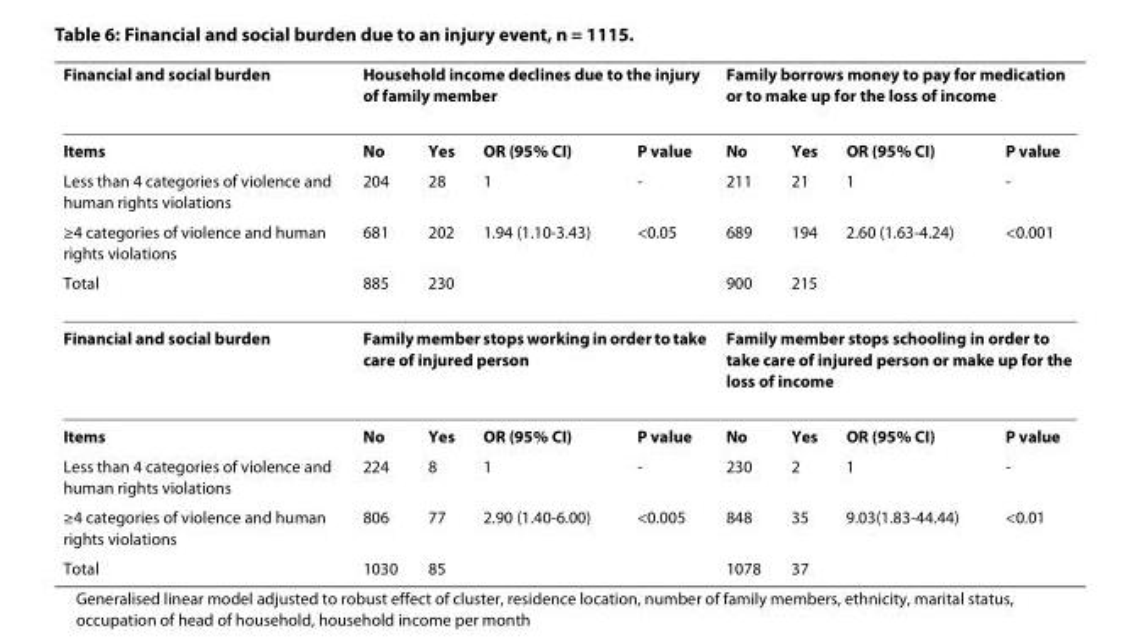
<table><thead><tr><td rowspan="2">Financial and social burden Items</td><td colspan="4">Household income declines due to the injury of family member</td><td colspan="4">Family borrows money to pay for medication or to make up for the loss of income</td></tr><tr><td>No</td><td>Yes</td><td>OR (95% CI)</td><td>P value</td><td>No</td><td>Yes</td><td>OR (95% CI)</td><td>P value</td></tr></thead><tbody><tr><td>Less than 4 categories of violence and human rights violations</td><td>204</td><td>28</td><td>1</td><td>-</td><td>211</td><td>21</td><td>1</td><td>-</td></tr><tr><td>≥4 categories of violence and human rights violations</td><td>681</td><td>202</td><td>1.94 (1.10-3.43)</td><td>&lt;0.05</td><td>689</td><td>194</td><td>2.60 (1.63-4.24)</td><td>&lt;0.001</td></tr><tr><td>Total</td><td>885</td><td>230</td><td></td><td></td><td>900</td><td>215</td><td></td><td></td></tr><tr><td>Financial and social burden</td><td colspan="4">Family member stops working in order to take care of injured person</td><td colspan="4">Family member stops schooling in order to take care of injured person or make up for the loss of income</td></tr><tr><td>Items</td><td>No</td><td>Yes</td><td>OR (95% CI)</td><td>P value</td><td>No</td><td>Yes</td><td>OR (95% CI)</td><td>P value</td></tr><tr><td>Less than 4 categories of violence and human rights violations</td><td>224</td><td>8</td><td>1</td><td>-</td><td>230</td><td>2</td><td>1</td><td>-</td></tr><tr><td>≥4 categories of violence and human rights violations</td><td>806</td><td>77</td><td>2.90 (1.40-6.00)</td><td>&lt;0.005</td><td>848</td><td>35</td><td>9.03(1.83-44.44)</td><td>&lt;0.01</td></tr><tr><td>Total</td><td>1030</td><td>85</td><td></td><td></td><td>1078</td><td>37</td><td></td><td></td></tr></tbody></table>